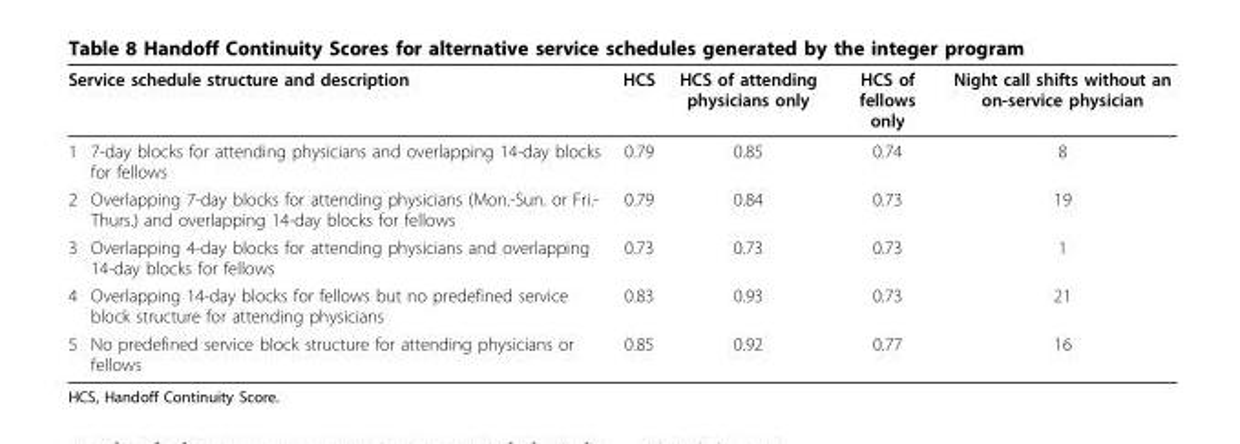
<table><thead><tr><td colspan="2">Service schedule structure and description</td><td rowspan="2">HCS 0.79</td><td rowspan="2">HCS of attending physicians only 0.85</td><td rowspan="2">HCS of fellows only 0.74</td><td rowspan="2">Night call shifts without an on-service physician 8</td></tr><tr><td>1</td><td>7-day blocks for attending physicians and overlapping 14-day blocks for fellows</td></tr></thead><tbody><tr><td>2</td><td>Overlapping 7-day blocks for attending physicians (Mon.-Sun. or Fri.- Thurs.) and overlapping 14-day blocks for fellows</td><td>0.79</td><td>0.84</td><td>0.73</td><td>19</td></tr><tr><td>3</td><td>Overlapping 4-day blocks for attending physicians and overlapping 14-day blocks for fellows</td><td>0.73</td><td>0.73</td><td>0.73</td><td>1</td></tr><tr><td>4</td><td>Overlapping 14-day blocks for fellows but no predefined service block structure for attending physicians</td><td>0.83</td><td>0.93</td><td>0.73</td><td>21</td></tr><tr><td>5</td><td>No predefined service block structure for attending physicians or fellows</td><td>0.85</td><td>0.92</td><td>0.77</td><td>16</td></tr></tbody></table>